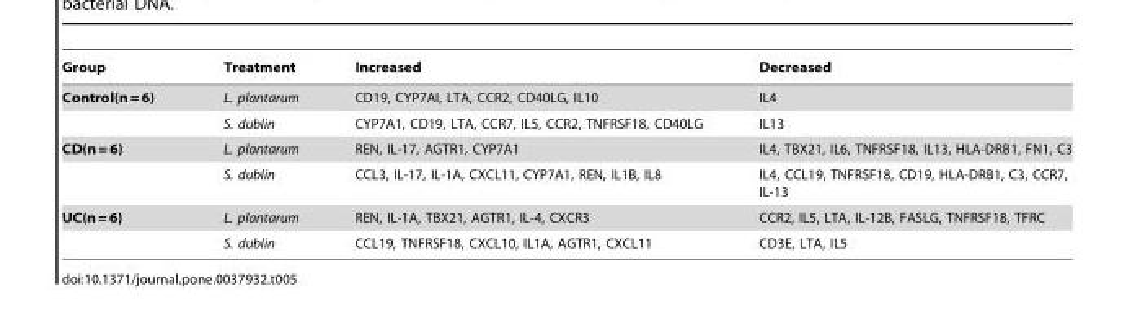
<table><thead><tr><td>Group</td><td>Treatment</td><td>Increased</td><td>Decreased</td></tr></thead><tbody><tr><td rowspan="2">Control(n = 6)</td><td>L. plantarum</td><td>CD19, CYP7AI, LTA, CCR2, CD40LG, IL10</td><td>IL4</td></tr><tr><td>S. dublin</td><td>CYP7A1, CD19, LTA, CCR7, IL5, CCR2, TNFRSF18, CD40LG</td><td>IL13</td></tr><tr><td rowspan="2">CD(n = 6)</td><td>L. plantarum</td><td>REN, IL-17, AGTR1, CYP7A1</td><td>IL4, TBX21, IL6, TNFRSF18, IL13, HLA-DRB1, FN1, C3</td></tr><tr><td>S. dublin</td><td>CCL3, IL-17, IL-1A, CXCL11, CYP7A1, REN, IL1B, IL8</td><td>IL4, CCL19, TNFRSF18, CD19, HLA-DRB1, C3, CCR7, IL-13</td></tr><tr><td rowspan="2">UC(n = 6)</td><td>L. plantarum</td><td>REN, IL-1A, TBX21, AGTR1, IL-4, CXCR3</td><td>CCR2, IL5, LTA, IL-12B, FASLG, TNFRSF18, TFRC</td></tr><tr><td>S. dublin</td><td>CCL19, TNFRSF18, CXCL10, IL1A, AGTR1, CXCL11</td><td>CD3E, LTA, IL5</td></tr></tbody></table>